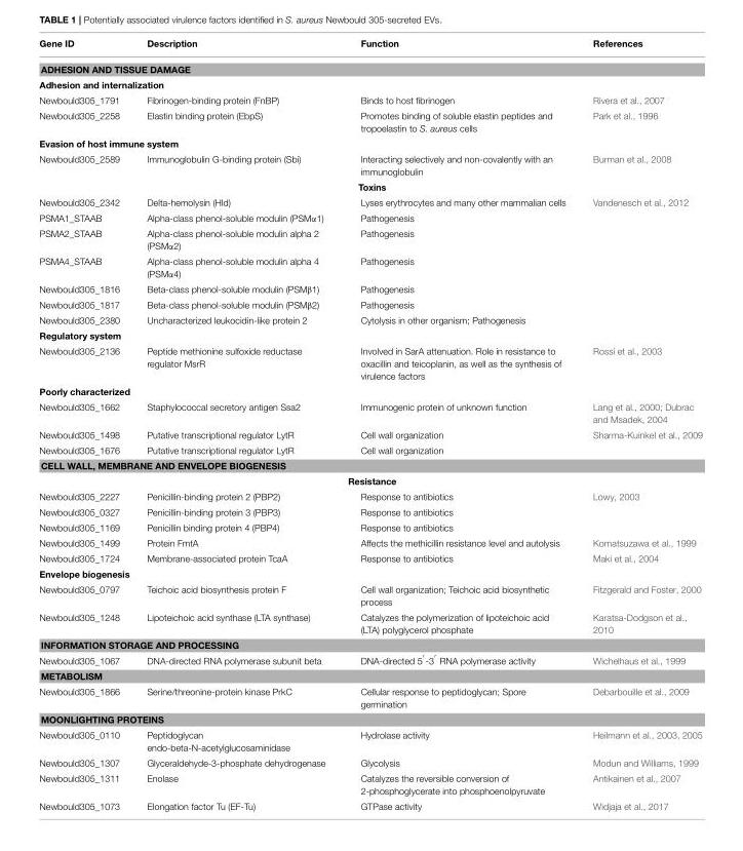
<table><thead><tr><td>Gene ID</td><td>Description</td><td>Function</td><td>References</td></tr></thead><tbody><tr><td colspan="4">ADHESION AND TISSUE DAMAGE</td></tr><tr><td colspan="4">Adhesion and internalization</td></tr><tr><td>Newbould305_1791</td><td>Fibrinogen-binding protein (FnBP)</td><td>Binds to host fibrinogen</td><td>Rivera et al., 2007</td></tr><tr><td>Newbould305_2258</td><td>Elastin binding protein (EbpS)</td><td>Promotes binding of soluble elastin peptides and tropoelastin to S. aureus cells</td><td>Park et al., 1996</td></tr><tr><td colspan="4">Evasion of host immune system</td></tr><tr><td>Newbould305_2589</td><td>Immunoglobulin G-binding protein (Sbi)</td><td>Interacting selectively and non-covalently with an immunoglobulin</td><td>Burman et al., 2008</td></tr><tr><td colspan="4">Toxins</td></tr><tr><td>Newbould305_2342</td><td>Delta-hemolysin (Hld)</td><td>Lyses erythrocytes and many other mammalian cells</td><td>Vandenesch et al., 2012</td></tr><tr><td>PSMA1_STAAB</td><td>Alpha-class phenol-soluble modulin (PSMα1)</td><td>Pathogenesis</td><td></td></tr><tr><td>PSMA2_STAAB</td><td>Alpha-class phenol-soluble modulin alpha 2 (PSMα2)</td><td>Pathogenesis</td><td></td></tr><tr><td>PSMA4_STAAB</td><td>Alpha-class phenol-soluble modulin alpha 4 (PSMα4)</td><td>Pathogenesis</td><td></td></tr><tr><td>Newbould305_1816</td><td>Beta-class phenol-soluble modulin (PSMβ1)</td><td>Pathogenesis</td><td></td></tr><tr><td>Newbould305_1817</td><td>Beta-class phenol-soluble modulin (PSMβ2)</td><td>Pathogenesis</td><td></td></tr><tr><td>Newbould305_2380</td><td>Uncharacterized leukocidin-like protein 2</td><td>Cytolysis in other organism; Pathogenesis</td><td></td></tr><tr><td colspan="4">Regulatory system</td></tr><tr><td>Newbould305_2136</td><td>Peptide methionine sulfoxide reductase regulator MsrR</td><td>Involved in SarA attenuation. Role in resistance to oxacillin and teicoplanin, as well as the synthesis of virulence factors</td><td>Rossi et al., 2003</td></tr><tr><td colspan="4">Poorly characterized</td></tr><tr><td>Newbould305_1662</td><td>Staphylococcal secretory antigen Ssa2</td><td>Immunogenic protein of unknown function</td><td>Lang et al., 2000; Dubrac and Msadek, 2004</td></tr><tr><td>Newbould305_1498</td><td>Putative transcriptional regulator LytR</td><td>Cell wall organization</td><td>Sharma-Kuinkel et al., 2009</td></tr><tr><td>Newbould305_1676</td><td>Putative transcriptional regulator LytR</td><td>Cell wall organization</td><td></td></tr><tr><td colspan="4">CELL WALL, MEMBRANE AND ENVELOPE BIOGENESIS</td></tr><tr><td colspan="4">Resistance</td></tr><tr><td>Newbould305_2227</td><td>Penicillin-binding protein 2 (PBP2)</td><td>Response to antibiotics</td><td>Lowy, 2003</td></tr><tr><td>Newbould305_0327</td><td>Penicillin-binding protein 3 (PBP3)</td><td>Response to antibiotics</td><td></td></tr><tr><td>Newbould305_1169</td><td>Penicillin binding protein 4 (PBP4)</td><td>Response to antibiotics</td><td></td></tr><tr><td>Newbould305_1499</td><td>Protein FmtA</td><td>Affects the methicillin resistance level and autolysis</td><td>Komatsuzawa et al., 1999</td></tr><tr><td>Newbould305_1724</td><td>Membrane-associated protein TcaA</td><td>Response to antibiotics</td><td>Maki et al., 2004</td></tr><tr><td colspan="4">Envelope biogenesis</td></tr><tr><td>Newbould305_0797</td><td>Teichoic acid biosynthesis protein F</td><td>Cell wall organization; Teichoic acid biosynthetic process</td><td>Fitzgerald and Foster, 2000</td></tr><tr><td>Newbould305_1248</td><td>Lipoteichoic acid synthase (LTA synthase)</td><td>Catalyzes the polymerization of lipoteichoic acid (LTA) polyglycerol phosphate</td><td>Karatsa-Dodgson et al., 2010</td></tr><tr><td colspan="4">INFORMATION STORAGE AND PROCESSING</td></tr><tr><td>Newbould305_1067</td><td>DNA-directed RNA polymerase subunit beta</td><td>DNA-directed 5 ′-3 ′ RNA polymerase activity</td><td>Wichelhaus et al., 1999</td></tr><tr><td colspan="4">METABOLISM</td></tr><tr><td>Newbould305_1866</td><td>Serine/threonine-protein kinase PrkC</td><td>Cellular response to peptidoglycan; Spore germination</td><td>Debarbouille et al., 2009</td></tr><tr><td colspan="4">MOONLIGHTING PROTEINS</td></tr><tr><td>Newbould305_0110</td><td>Peptidoglycan endo-beta-N-acetylglucosaminidase</td><td>Hydrolase activity</td><td>Heilmann et al., 2003, 2005</td></tr><tr><td>Newbould305_1307</td><td>Glyceraldehyde-3-phosphate dehydrogenase</td><td>Glycolysis</td><td>Modun and Williams, 1999</td></tr><tr><td>Newbould305_1311</td><td>Enolase</td><td>Catalyzes the reversible conversion of 2-phosphoglycerate into phosphoenolpyruvate</td><td>Antikainen et al., 2007</td></tr><tr><td>Newbould305_1073</td><td>Elongation factor Tu (EF-Tu)</td><td>GTPase activity</td><td>Widjaja et al., 2017</td></tr></tbody></table>